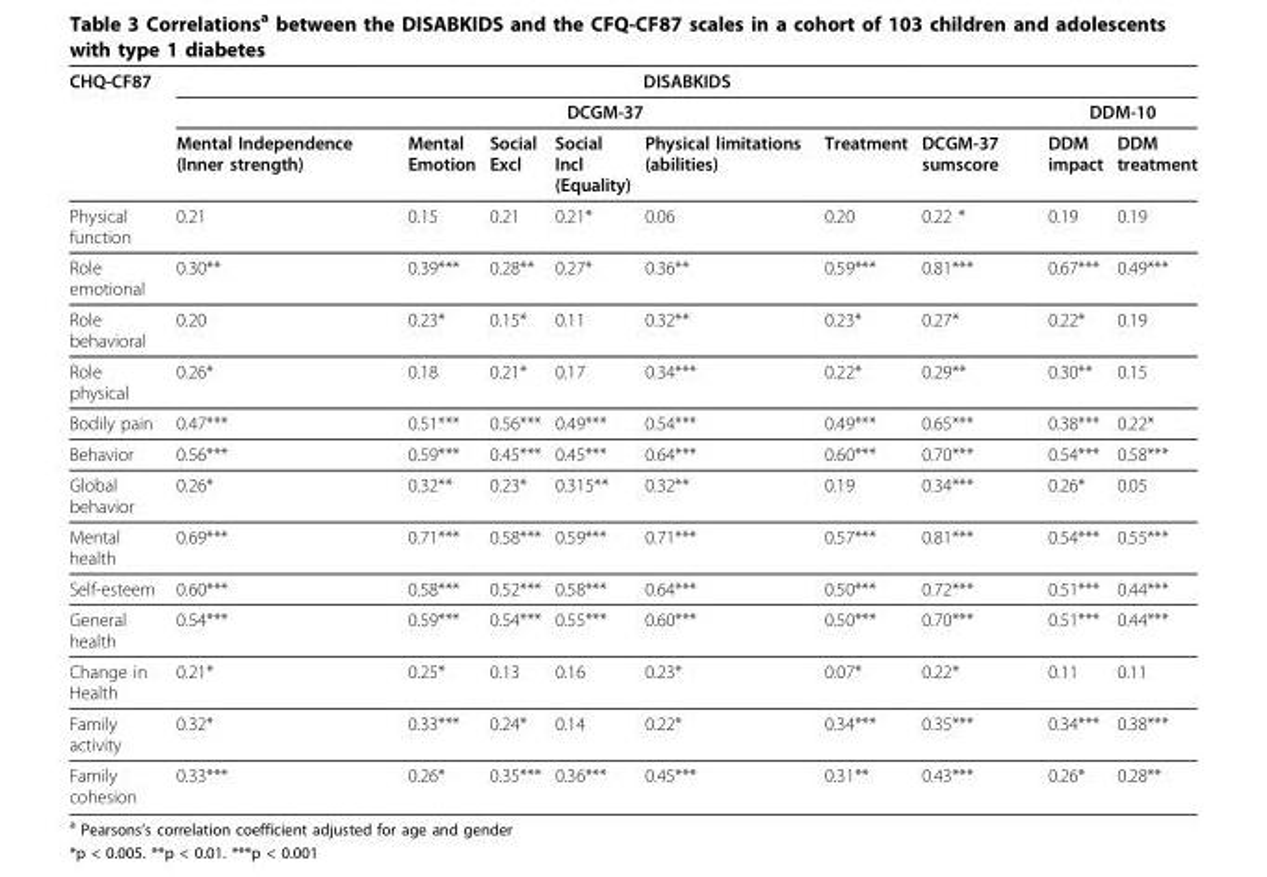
<table><thead><tr><td rowspan="3">CHQ-CF87</td><td colspan="9">DISABKIDS</td></tr><tr><td colspan="7">DCGM-37</td><td colspan="2">DDM-10</td></tr><tr><td>Mental Independence (Inner strength)</td><td>Mental Emotion</td><td>Social Excl</td><td>Social Incl (Equality)</td><td>Physical limitations (abilities)</td><td>Treatment</td><td>DCGM-37 sumscore</td><td>DDM impact</td><td>DDM treatment</td></tr></thead><tbody><tr><td>Physical function</td><td>0.21</td><td>0.15</td><td>0.21</td><td>0.21*</td><td>0.06</td><td>0.20</td><td>0.22 *</td><td>0.19</td><td>0.19</td></tr><tr><td>Role emotional</td><td>0.30**</td><td>0.39***</td><td>0.28**</td><td>0.27*</td><td>0.36**</td><td>0.59***</td><td>0.81***</td><td>0.67***</td><td>0.49***</td></tr><tr><td>Role behavioral</td><td>0.20</td><td>0.23*</td><td>0.15*</td><td>0.11</td><td>0.32**</td><td>0.23*</td><td>0.27*</td><td>0.22*</td><td>0.19</td></tr><tr><td>Role physical</td><td>0.26*</td><td>0.18</td><td>0.21*</td><td>0.17</td><td>0.34***</td><td>0.22*</td><td>0.29**</td><td>0.30**</td><td>0.15</td></tr><tr><td>Bodily pain</td><td>0.47***</td><td>0.51***</td><td>0.56***</td><td>0.49***</td><td>0.54***</td><td>0.49***</td><td>0.65***</td><td>0.38***</td><td>0.22*</td></tr><tr><td>Behavior</td><td>0.56***</td><td>0.59***</td><td>0.45***</td><td>0.45***</td><td>0.64***</td><td>0.60***</td><td>0.70***</td><td>0.54***</td><td>0.58***</td></tr><tr><td>Global behavior</td><td>0.26*</td><td>0.32**</td><td>0.23*</td><td>0.315**</td><td>0.32**</td><td>0.19</td><td>0.34***</td><td>0.26*</td><td>0.05</td></tr><tr><td>Mental health</td><td>0.69***</td><td>0.71***</td><td>0.58***</td><td>0.59***</td><td>0.71***</td><td>0.57***</td><td>0.81***</td><td>0.54***</td><td>0.55***</td></tr><tr><td>Self-esteem</td><td>0.60***</td><td>0.58***</td><td>0.52***</td><td>0.58***</td><td>0.64***</td><td>0.50***</td><td>0.72***</td><td>0.51***</td><td>0.44***</td></tr><tr><td>General health</td><td>0.54***</td><td>0.59***</td><td>0.54***</td><td>0.55***</td><td>0.60***</td><td>0.50***</td><td>0.70***</td><td>0.51***</td><td>0.44***</td></tr><tr><td>Change in Health</td><td>0.21*</td><td>0.25*</td><td>0.13</td><td>0.16</td><td>0.23*</td><td>0.07*</td><td>0.22*</td><td>0.11</td><td>0.11</td></tr><tr><td>Family activity</td><td>0.32*</td><td>0.33***</td><td>0.24*</td><td>0.14</td><td>0.22*</td><td>0.34***</td><td>0.35***</td><td>0.34***</td><td>0.38***</td></tr><tr><td>Family cohesion</td><td>0.33***</td><td>0.26*</td><td>0.35***</td><td>0.36***</td><td>0.45***</td><td>0.31**</td><td>0.43***</td><td>0.26*</td><td>0.28**</td></tr></tbody></table>